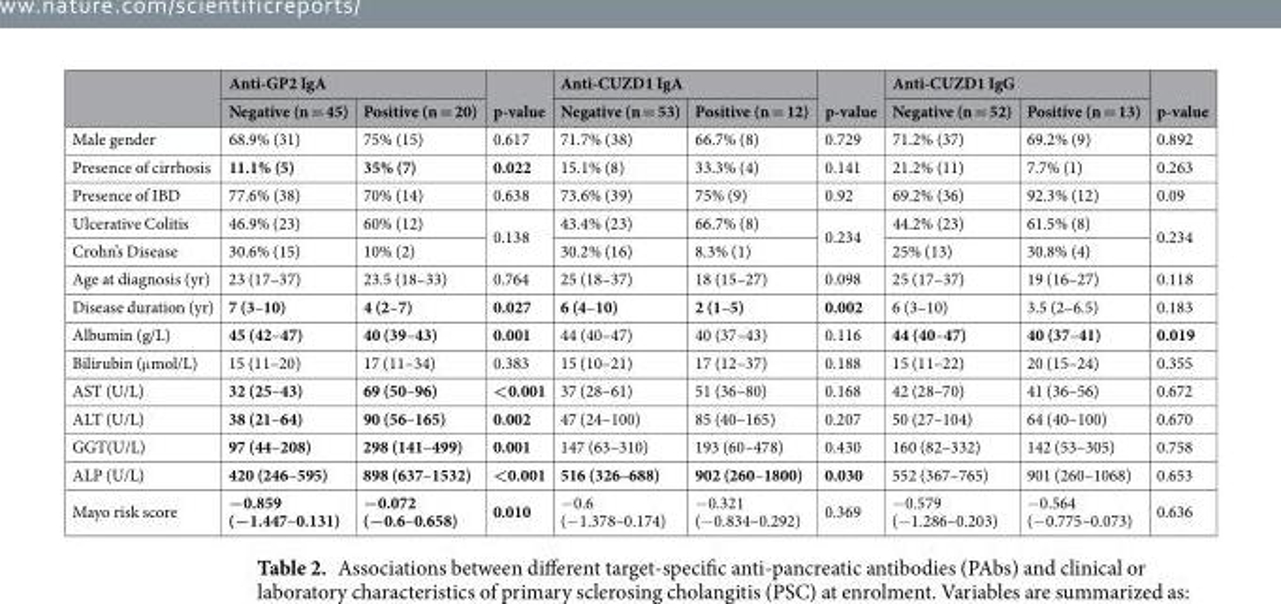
<table><thead><tr><td rowspan="2"></td><td colspan="2">Anti-GP2 IgA</td><td rowspan="2">p-value</td><td colspan="2">Anti-CUZD1 IgA</td><td rowspan="2">p-value</td><td colspan="2">Anti-CUZD1 IgG</td><td rowspan="2">p-value</td></tr><tr><td>Negative (n = 45)</td><td>Positive (n = 20)</td><td>Negative (n = 53)</td><td>Positive (n = 12)</td><td>Negative (n = 52)</td><td>Positive (n = 13)</td></tr></thead><tbody><tr><td>Male gender</td><td>68.9% (31)</td><td>75% (15)</td><td>0.617</td><td>71.7% (38)</td><td>66.7% (8)</td><td>0.729</td><td>71.2% (37)</td><td>69.2% (9)</td><td>0.892</td></tr><tr><td>Presence of cirrhosis</td><td>11.1% (5)</td><td>35% (7)</td><td>0.022</td><td>15.1% (8)</td><td>33.3% (4)</td><td>0.141</td><td>21.2% (11)</td><td>7.7% (1)</td><td>0.263</td></tr><tr><td>Presence of IBD</td><td>77.6% (38)</td><td>70% (14)</td><td>0.638</td><td>73.6% (39)</td><td>75% (9)</td><td>0.92</td><td>69.2% (36)</td><td>92.3% (12)</td><td>0.09</td></tr><tr><td>Ulcerative Colitis</td><td>46.9% (23)</td><td>60% (12)</td><td rowspan="2">0.138</td><td>43.4% (23)</td><td>66.7% (8)</td><td rowspan="2">0.234</td><td>44.2% (23)</td><td>61.5% (8)</td><td rowspan="2">0.234</td></tr><tr><td>Crohn’s Disease</td><td>30.6% (15)</td><td>10% (2)</td><td>30.2% (16)</td><td>8.3% (1)</td><td>25% (13)</td><td>30.8% (4)</td></tr><tr><td>Age at diagnosis (yr)</td><td>23 (17–37)</td><td>23.5 (18–33)</td><td>0.764</td><td>25 (18–37)</td><td>18 (15–27)</td><td>0.098</td><td>25 (17–37)</td><td>19 (16–27)</td><td>0.118</td></tr><tr><td>Disease duration (yr)</td><td>7 (3–10)</td><td>4 (2–7)</td><td>0.027</td><td>6 (4–10)</td><td>2 (1–5)</td><td>0.002</td><td>6 (3–10)</td><td>3.5 (2–6.5)</td><td>0.183</td></tr><tr><td>Albumin (g/L)</td><td>45 (42–47)</td><td>40 (39–43)</td><td>0.001</td><td>44 (40–47)</td><td>40 (37–43)</td><td>0.116</td><td>44 (40–47)</td><td>40 (37–41)</td><td>0.019</td></tr><tr><td>Bilirubin (μmol/L)</td><td>15 (11–20)</td><td>17 (11–34)</td><td>0.383</td><td>15 (10–21)</td><td>17 (12–37)</td><td>0.188</td><td>15 (11–22)</td><td>20 (15–24)</td><td>0.355</td></tr><tr><td>AST (U/L)</td><td>32 (25–43)</td><td>69 (50–96)</td><td>&lt;0.001</td><td>37 (28–61)</td><td>51 (36–80)</td><td>0.168</td><td>42 (28–70)</td><td>41 (36–56)</td><td>0.672</td></tr><tr><td>ALT (U/L)</td><td>38 (21–64)</td><td>90 (56–165)</td><td>0.002</td><td>47 (24–100)</td><td>85 (40–165)</td><td>0.207</td><td>50 (27–104)</td><td>64 (40–100)</td><td>0.670</td></tr><tr><td>GGT(U/L)</td><td>97 (44–208)</td><td>298 (141–499)</td><td>0.001</td><td>147 (63–310)</td><td>193 (60–478)</td><td>0.430</td><td>160 (82–332)</td><td>142 (53–305)</td><td>0.758</td></tr><tr><td>ALP (U/L)</td><td>420 (246–595)</td><td>898 (637–1532)</td><td>&lt;0.001</td><td>516 (326–688)</td><td>902 (260–1800)</td><td>0.030</td><td>552 (367–765)</td><td>901 (260–1068)</td><td>0.653</td></tr><tr><td>Mayo risk score</td><td>−0.859 (−1.447–0.131)</td><td>−0.072 (−0.6–0.658)</td><td>0.010</td><td>−0.6 (−1.378–0.174)</td><td>−0.321 (−0.834–0.292)</td><td>0.369</td><td>−0.579 (−1.286–0.203)</td><td>−0.564 (−0.775–0.073)</td><td>0.636</td></tr></tbody></table>